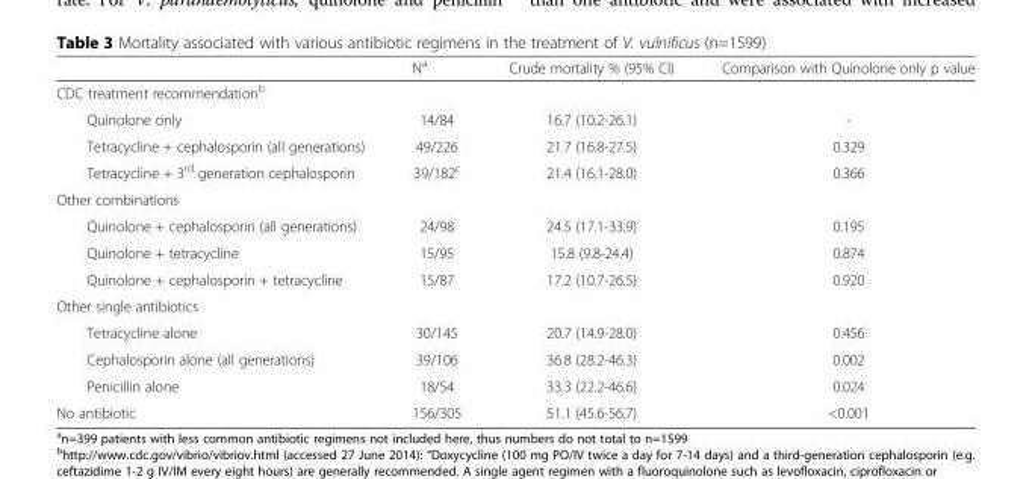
<table><thead><tr><td></td><td>N<sup>a</sup></td><td>Crude mortality % (95% CI)</td><td>Comparison with Quinolone only p value</td></tr></thead><tbody><tr><td colspan="4">CDC treatment recommendation<sup>b</sup></td></tr><tr><td>Quinolone only</td><td>14/84</td><td>16.7 (10.2-26.1)</td><td>-</td></tr><tr><td>Tetracycline + cephalosporin (all generations)</td><td>49/226</td><td>21.7 (16.8-27.5)</td><td>0.329</td></tr><tr><td>Tetracycline + 3<sup>rd</sup> generation cephalosporin</td><td>39/182<sup>c</sup></td><td>21.4 (16.1-28.0)</td><td>0.366</td></tr><tr><td colspan="4">Other combinations</td></tr><tr><td>Quinolone + cephalosporin (all generations)</td><td>24/98</td><td>24.5 (17.1-33.9)</td><td>0.195</td></tr><tr><td>Quinolone + tetracycline</td><td>15/95</td><td>15.8 (9.8-24.4)</td><td>0.874</td></tr><tr><td>Quinolone + cephalosporin + tetracycline</td><td>15/87</td><td>17.2 (10.7-26.5)</td><td>0.920</td></tr><tr><td colspan="4">Other single antibiotics</td></tr><tr><td>Tetracycline alone</td><td>30/145</td><td>20.7 (14.9-28.0)</td><td>0.456</td></tr><tr><td>Cephalosporin alone (all generations)</td><td>39/106</td><td>36.8 (28.2-46.3)</td><td>0.002</td></tr><tr><td>Penicillin alone</td><td>18/54</td><td>33.3 (22.2-46.6)</td><td>0.024</td></tr><tr><td>No antibiotic</td><td>156/305</td><td>51.1 (45.6-56.7)</td><td>&lt;0.001</td></tr></tbody></table>